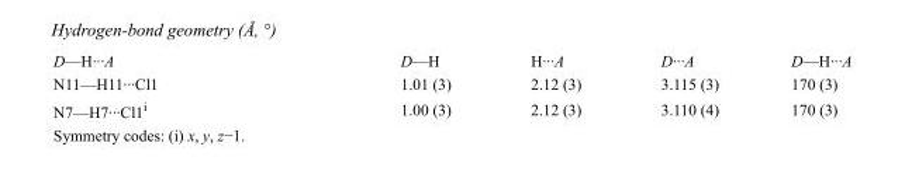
<table><tbody><tr><td>D—H···A</td><td>D—H</td><td>H···A</td><td>D···A</td><td>D—H···A</td></tr><tr><td>N11—H11···Cl1</td><td>1.01 (3)</td><td>2.12 (3)</td><td>3.115 (3)</td><td>170 (3)</td></tr><tr><td>N7—H7···Cl1<sup>i</sup></td><td>1.00 (3)</td><td>2.12 (3)</td><td>3.110 (4)</td><td>170 (3)</td></tr></tbody></table>